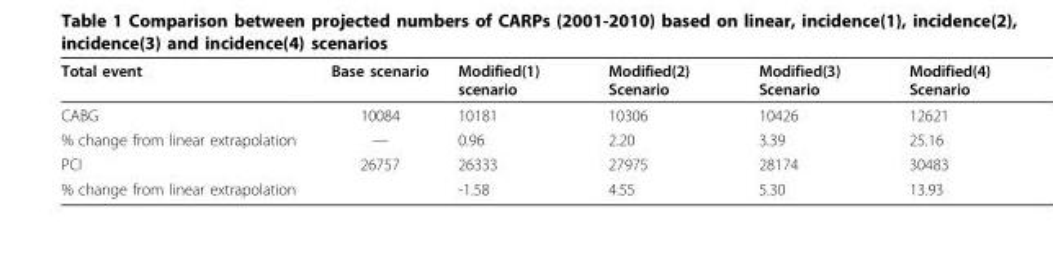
<table><thead><tr><td>Total event</td><td>Base scenario</td><td>Modified(1) scenario</td><td>Modified(2) Scenario</td><td>Modified(3) Scenario</td><td>Modified(4) Scenario</td></tr></thead><tbody><tr><td>CABG</td><td>10084</td><td>10181</td><td>10306</td><td>10426</td><td>12621</td></tr><tr><td>% change from linear extrapolation</td><td>—</td><td>0.96</td><td>2.20</td><td>3.39</td><td>25.16</td></tr><tr><td>PCI</td><td>26757</td><td>26333</td><td>27975</td><td>28174</td><td>30483</td></tr><tr><td>% change from linear extrapolation</td><td></td><td>-1.58</td><td>4.55</td><td>5.30</td><td>13.93</td></tr></tbody></table>